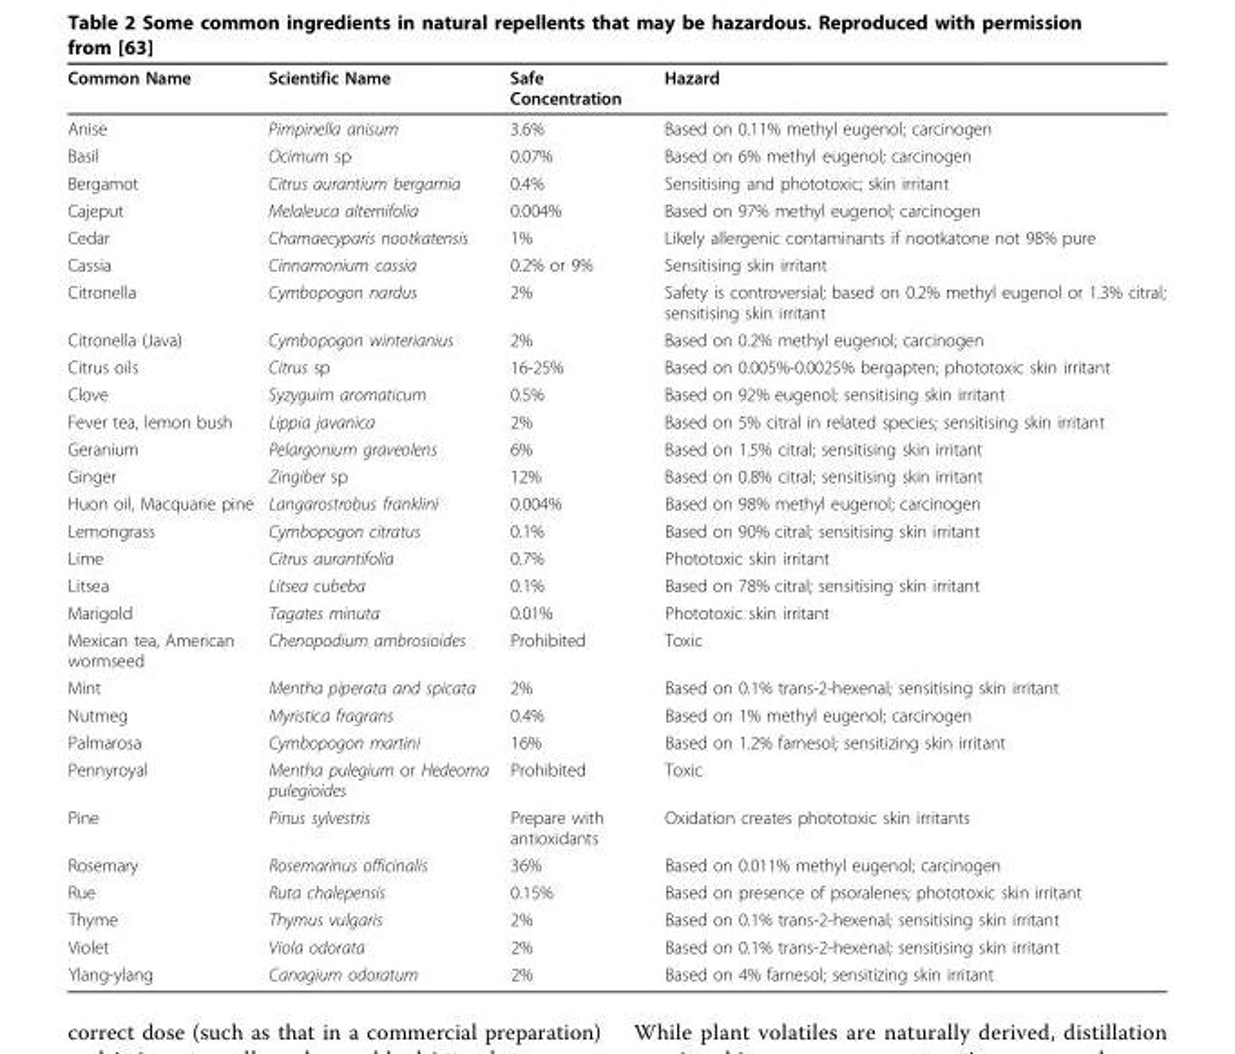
<table><thead><tr><td>Common Name</td><td>Scientific Name</td><td>Safe Concentration</td><td>Hazard</td></tr></thead><tbody><tr><td>Anise</td><td>Pimpinella anisum</td><td>3.6%</td><td>Based on 0.11% methyl eugenol; carcinogen</td></tr><tr><td>Basil</td><td>Ocimum sp</td><td>0.07%</td><td>Based on 6% methyl eugenol; carcinogen</td></tr><tr><td>Bergamot</td><td>Citrus aurantium bergamia</td><td>0.4%</td><td>Sensitising and phototoxic; skin irritant</td></tr><tr><td>Cajeput</td><td>Melaleuca alternifolia</td><td>0.004%</td><td>Based on 97% methyl eugenol; carcinogen</td></tr><tr><td>Cedar</td><td>Chamaecyparis nootkatensis</td><td>1%</td><td>Likely allergenic contaminants if nootkatone not 98% pure</td></tr><tr><td>Cassia</td><td>Cinnamonium cassia</td><td>0.2% or 9%</td><td>Sensitising skin irritant</td></tr><tr><td>Citronella</td><td>Cymbopogon nardus</td><td>2%</td><td>Safety is controversial; based on 0.2% methyl eugenol or 1.3% citral; sensitising skin irritant</td></tr><tr><td>Citronella (Java)</td><td>Cymbopogon winterianius</td><td>2%</td><td>Based on 0.2% methyl eugenol; carcinogen</td></tr><tr><td>Citrus oils</td><td>Citrus sp</td><td>16-25%</td><td>Based on 0.005%-0.0025% bergapten; phototoxic skin irritant</td></tr><tr><td>Clove</td><td>Syzyguim aromaticum</td><td>0.5%</td><td>Based on 92% eugenol; sensitising skin irritant</td></tr><tr><td>Fever tea, lemon bush</td><td>Lippia javanica</td><td>2%</td><td>Based on 5% citral in related species; sensitising skin irritant</td></tr><tr><td>Geranium</td><td>Pelargonium graveolens</td><td>6%</td><td>Based on 1.5% citral; sensitising skin irritant</td></tr><tr><td>Ginger</td><td>Zingiber sp</td><td>12%</td><td>Based on 0.8% citral; sensitising skin irritant</td></tr><tr><td>Huon oil, Macquarie pine</td><td>Langarostrobus franklini</td><td>0.004%</td><td>Based on 98% methyl eugenol; carcinogen</td></tr><tr><td>Lemongrass</td><td>Cymbopogon citratus</td><td>0.1%</td><td>Based on 90% citral; sensitising skin irritant</td></tr><tr><td>Lime</td><td>Citrus aurantifolia</td><td>0.7%</td><td>Phototoxic skin irritant</td></tr><tr><td>Litsea</td><td>Litsea cubeba</td><td>0.1%</td><td>Based on 78% citral; sensitising skin irritant</td></tr><tr><td>Marigold</td><td>Tagates minuta</td><td>0.01%</td><td>Phototoxic skin irritant</td></tr><tr><td>Mexican tea, American wormseed</td><td>Chenopodium ambrosioides</td><td>Prohibited</td><td>Toxic</td></tr><tr><td>Mint</td><td>Mentha piperata and spicata</td><td>2%</td><td>Based on 0.1% trans-2-hexenal; sensitising skin irritant</td></tr><tr><td>Nutmeg</td><td>Myristica fragrans</td><td>0.4%</td><td>Based on 1% methyl eugenol; carcinogen</td></tr><tr><td>Palmarosa</td><td>Cymbopogon martini</td><td>16%</td><td>Based on 1.2% farnesol; sensitizing skin irritant</td></tr><tr><td>Pennyroyal</td><td>Mentha pulegium or Hedeoma pulegioides</td><td>Prohibited</td><td>Toxic</td></tr><tr><td>Pine</td><td>Pinus sylvestris</td><td>Prepare with antioxidants</td><td>Oxidation creates phototoxic skin irritants</td></tr><tr><td>Rosemary</td><td>Rosemarinus officinalis</td><td>36%</td><td>Based on 0.011% methyl eugenol; carcinogen</td></tr><tr><td>Rue</td><td>Ruta chalepensis</td><td>0.15%</td><td>Based on presence of psoralenes; phototoxic skin irritant</td></tr><tr><td>Thyme</td><td>Thymus vulgaris</td><td>2%</td><td>Based on 0.1% trans-2-hexenal; sensitising skin irritant</td></tr><tr><td>Violet</td><td>Viola odorata</td><td>2%</td><td>Based on 0.1% trans-2-hexenal; sensitising skin irritant</td></tr><tr><td>Ylang-ylang</td><td>Canagium odoratum</td><td>2%</td><td>Based on 4% farnesol; sensitizing skin irritant</td></tr></tbody></table>